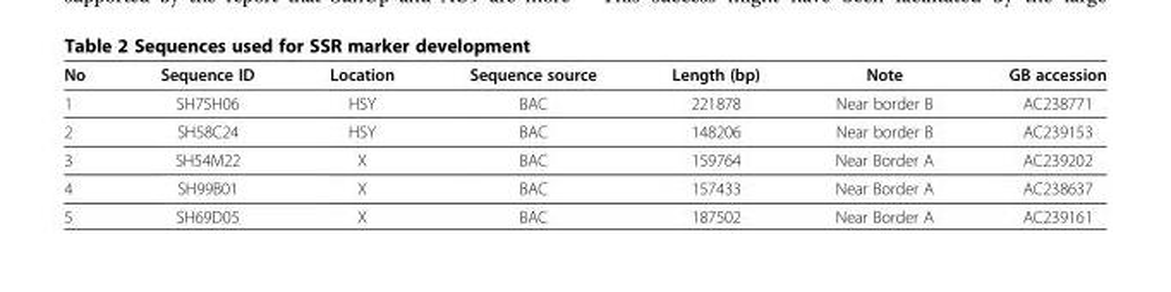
<table><thead><tr><td>No</td><td>Sequence ID</td><td>Location</td><td>Sequence source</td><td>Length (bp)</td><td>Note</td><td>GB accession</td></tr></thead><tbody><tr><td>1</td><td>SH75H06</td><td>HSY</td><td>BAC</td><td>221878</td><td>Near border B</td><td>AC238771</td></tr><tr><td>2</td><td>SH58C24</td><td>HSY</td><td>BAC</td><td>148206</td><td>Near border B</td><td>AC239153</td></tr><tr><td>3</td><td>SH54M22</td><td>X</td><td>BAC</td><td>159764</td><td>Near Border A</td><td>AC239202</td></tr><tr><td>4</td><td>SH99B01</td><td>X</td><td>BAC</td><td>157433</td><td>Near Border A</td><td>AC238637</td></tr><tr><td>5</td><td>SH69D05</td><td>X</td><td>BAC</td><td>187502</td><td>Near Border A</td><td>AC239161</td></tr></tbody></table>